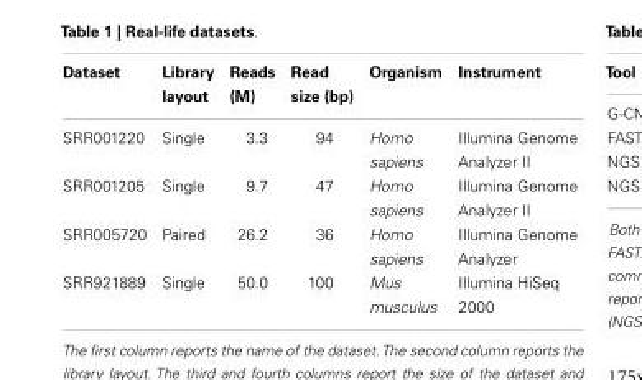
<table><thead><tr><td>Dataset</td><td>Library layout</td><td>Reads (M)</td><td>Read size (bp)</td><td>Organism</td><td>Instrument</td></tr></thead><tbody><tr><td>SRR001220</td><td>Single</td><td>3.3</td><td>94</td><td>Homo sapiens</td><td>Illumina Genome Analyzer II</td></tr><tr><td>SRR001205</td><td>Single</td><td>9.7</td><td>47</td><td>Homo sapiens</td><td>Illumina Genome Analyzer II</td></tr><tr><td>SRR005720</td><td>Paired</td><td>26.2</td><td>36</td><td>Homo sapiens</td><td>Illumina Genome Analyzer</td></tr><tr><td>SRR921889</td><td>Single</td><td>50.0</td><td>100</td><td>Mus musculus</td><td>Illumina HiSeq 2000</td></tr></tbody></table>